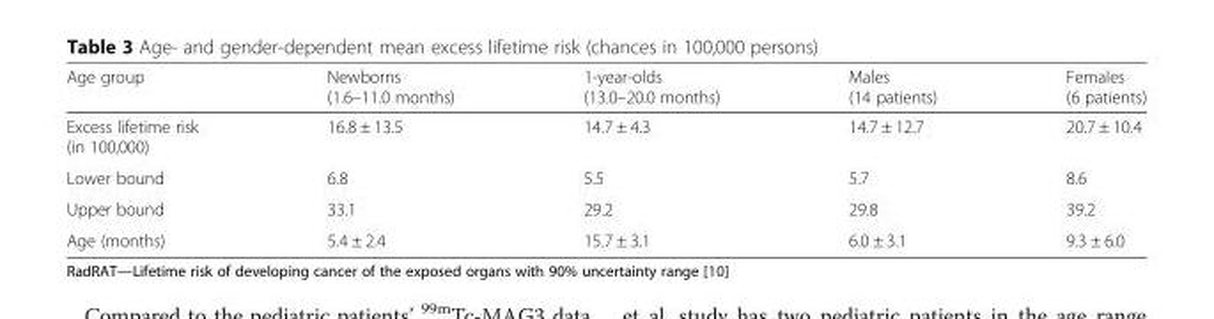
<table><thead><tr><td>Age group</td><td>Newborns (1.6–11.0 months)</td><td>1-year-olds (13.0–20.0 months)</td><td>Males (14 patients)</td><td>Females (6 patients)</td></tr></thead><tbody><tr><td>Excess lifetime risk (in 100,000)</td><td>16.8 ± 13.5</td><td>14.7 ± 4.3</td><td>14.7 ± 12.7</td><td>20.7 ± 10.4</td></tr><tr><td>Lower bound</td><td>6.8</td><td>5.5</td><td>5.7</td><td>8.6</td></tr><tr><td>Upper bound</td><td>33.1</td><td>29.2</td><td>29.8</td><td>39.2</td></tr><tr><td>Age (months)</td><td>5.4 ± 2.4</td><td>15.7 ± 3.1</td><td>6.0 ± 3.1</td><td>9.3 ± 6.0</td></tr></tbody></table>